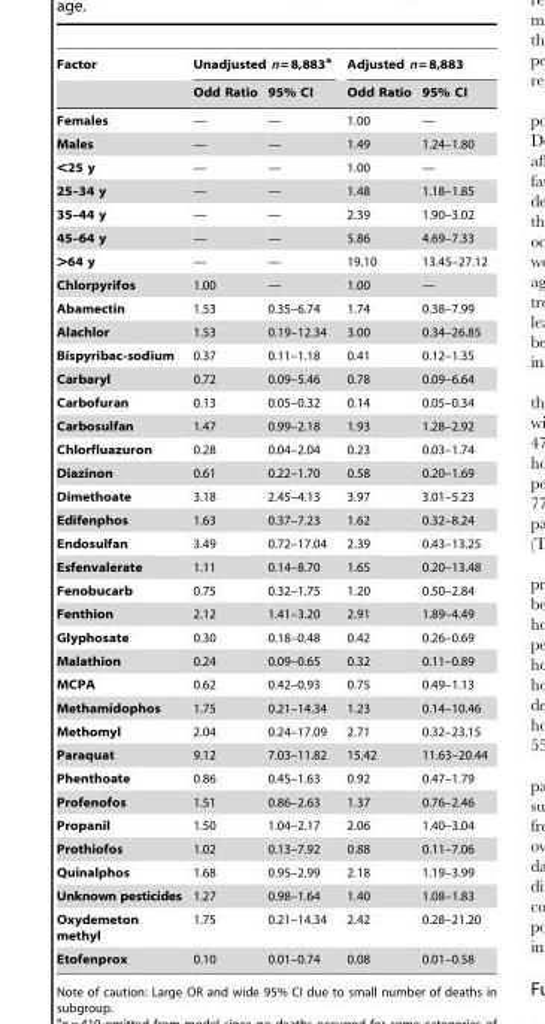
<table><thead><tr><td rowspan="2">Factor</td><td colspan="2">Unadjusted n = 8,883<sup>a</sup></td><td colspan="2">Adjusted n = 8,883</td></tr><tr><td>Odd Ratio</td><td>95% CI</td><td>Odd Ratio</td><td>95% CI</td></tr></thead><tbody><tr><td>Females</td><td>—</td><td>—</td><td>1.00</td><td>—</td></tr><tr><td>Males</td><td>—</td><td>—</td><td>1.49</td><td>1.24–1.80</td></tr><tr><td>&lt;25 y</td><td>—</td><td>—</td><td>1.00</td><td>—</td></tr><tr><td>25–34 y</td><td>—</td><td>—</td><td>1.48</td><td>1.18–1.85</td></tr><tr><td>35–44 y</td><td>—</td><td>—</td><td>2.39</td><td>1.90–3.02</td></tr><tr><td>45–64 y</td><td>—</td><td>—</td><td>5.86</td><td>4.69–7.33</td></tr><tr><td>&gt;64 y</td><td>—</td><td>—</td><td>19.10</td><td>13.45–27.12</td></tr><tr><td>Chlorpyrifos</td><td>1.00</td><td>—</td><td>1.00</td><td>—</td></tr><tr><td>Abamectin</td><td>1.53</td><td>0.35–6.74</td><td>1.74</td><td>0.38–7.99</td></tr><tr><td>Alachlor</td><td>1.53</td><td>0.19–12.34</td><td>3.00</td><td>0.34–26.85</td></tr><tr><td>Bispyribac-sodium</td><td>0.37</td><td>0.11–1.18</td><td>0.41</td><td>0.12–1.35</td></tr><tr><td>Carbaryl</td><td>0.72</td><td>0.09–5.46</td><td>0.78</td><td>0.09–6.64</td></tr><tr><td>Carbofuran</td><td>0.13</td><td>0.05–0.32</td><td>0.14</td><td>0.05–0.34</td></tr><tr><td>Carbosulfan</td><td>1.47</td><td>0.99–2.18</td><td>1.93</td><td>1.28–2.92</td></tr><tr><td>Chlorfluazuron</td><td>0.28</td><td>0.04–2.04</td><td>0.23</td><td>0.03–1.74</td></tr><tr><td>Diazinon</td><td>0.61</td><td>0.22–1.70</td><td>0.58</td><td>0.20–1.69</td></tr><tr><td>Dimethoate</td><td>3.18</td><td>2.45–4.13</td><td>3.97</td><td>3.01–5.23</td></tr><tr><td>Edifenphos</td><td>1.63</td><td>0.37–7.23</td><td>1.62</td><td>0.32–8.24</td></tr><tr><td>Endosulfan</td><td>3.49</td><td>0.72–17.04</td><td>2.39</td><td>0.43–13.25</td></tr><tr><td>Esfenvalerate</td><td>1.11</td><td>0.14–8.70</td><td>1.65</td><td>0.20–13.48</td></tr><tr><td>Fenobucarb</td><td>0.75</td><td>0.32–1.75</td><td>1.20</td><td>0.50–2.84</td></tr><tr><td>Fenthion</td><td>2.12</td><td>1.41–3.20</td><td>2.91</td><td>1.89–4.49</td></tr><tr><td>Glyphosate</td><td>0.30</td><td>0.18–0.48</td><td>0.42</td><td>0.26–0.69</td></tr><tr><td>Malathion</td><td>0.24</td><td>0.09–0.65</td><td>0.32</td><td>0.11–0.89</td></tr><tr><td>MCPA</td><td>0.62</td><td>0.42–0.93</td><td>0.75</td><td>0.49–1.13</td></tr><tr><td>Methamidophos</td><td>1.75</td><td>0.21–14.34</td><td>1.23</td><td>0.14–10.46</td></tr><tr><td>Methomyl</td><td>2.04</td><td>0.24–17.09</td><td>2.71</td><td>0.32–23.15</td></tr><tr><td>Paraquat</td><td>9.12</td><td>7.03–11.82</td><td>15.42</td><td>11.63–20.44</td></tr><tr><td>Phenthoate</td><td>0.86</td><td>0.45–1.63</td><td>0.92</td><td>0.47–1.79</td></tr><tr><td>Profenofos</td><td>1.51</td><td>0.86–2.63</td><td>1.37</td><td>0.76–2.46</td></tr><tr><td>Propanil</td><td>1.50</td><td>1.04–2.17</td><td>2.06</td><td>1.40–3.04</td></tr><tr><td>Prothiofos</td><td>1.02</td><td>0.13–7.92</td><td>0.88</td><td>0.11–7.06</td></tr><tr><td>Quinalphos</td><td>1.68</td><td>0.95–2.99</td><td>2.18</td><td>1.19–3.99</td></tr><tr><td>Unknown pesticides</td><td>1.27</td><td>0.98–1.64</td><td>1.40</td><td>1.08–1.83</td></tr><tr><td>Oxydemeton methyl</td><td>1.75</td><td>0.21–14.34</td><td>2.42</td><td>0.28–21.20</td></tr><tr><td>Etofenprox</td><td>0.10</td><td>0.01–0.74</td><td>0.08</td><td>0.01–0.58</td></tr></tbody></table>